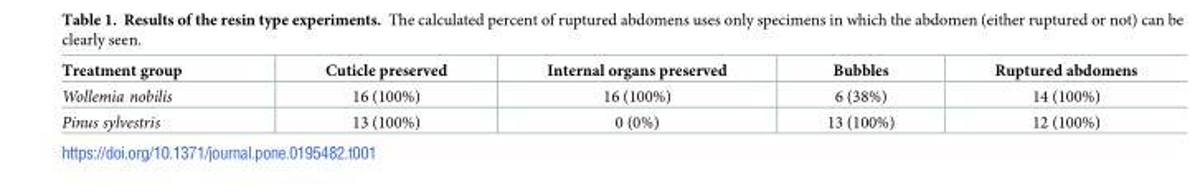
<table><thead><tr><td>Treatment group</td><td>Cuticle preserved</td><td>Internal organs preserved</td><td>Bubbles</td><td>Ruptured abdomens</td></tr></thead><tbody><tr><td>Wollemia nobilis</td><td>16 (100%)</td><td>16 (100%)</td><td>6 (38%)</td><td>14 (100%)</td></tr><tr><td>Pinus sylvestris</td><td>13 (100%)</td><td>0 (0%)</td><td>13 (100%)</td><td>12 (100%)</td></tr></tbody></table>